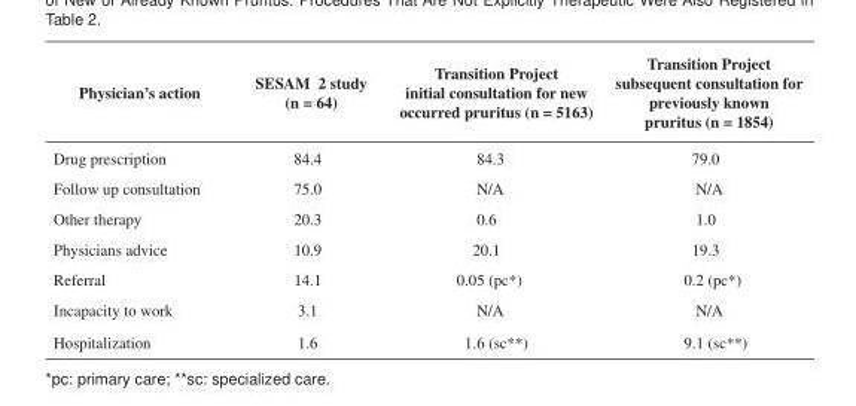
<table><thead><tr><td>Physician’s action</td><td>SESAM 2 study (n = 64)</td><td>Transition Project initial consultation for new occurred pruritus (n = 5163)</td><td>Transition Project subsequent consultation for previously known pruritus (n = 1854)</td></tr></thead><tbody><tr><td>Drug prescription</td><td>84.4</td><td>84.3</td><td>79.0</td></tr><tr><td>Follow up consultation</td><td>75.0</td><td>N/A</td><td>N/A</td></tr><tr><td>Other therapy</td><td>20.3</td><td>0.6</td><td>1.0</td></tr><tr><td>Physicians advice</td><td>10.9</td><td>20.1</td><td>19.3</td></tr><tr><td>Referral</td><td>14.1</td><td>0.05 (pc*)</td><td>0.2 (pc*)</td></tr><tr><td>Incapacity to work</td><td>3.1</td><td>N/A</td><td>N/A</td></tr><tr><td>Hospitalization</td><td>1.6</td><td>1.6 (sc**)</td><td>9.1 (sc**)</td></tr></tbody></table>